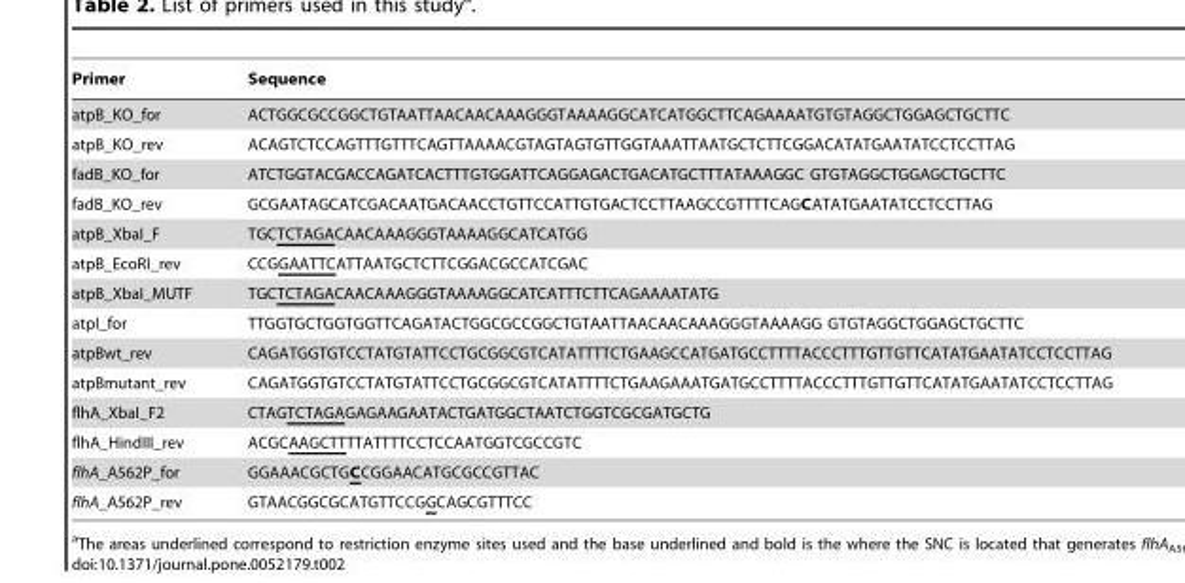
<table><thead><tr><td>Primer</td><td>Sequence</td></tr></thead><tbody><tr><td>atpB_KO_for</td><td>ACTGGCGCCGGCTGTAATTAACAACAAAGGGTAAAAGGCATCATGGCTTCAGAAAATGTGTAGGCTGGAGCTGCTTC</td></tr><tr><td>atpB_KO_rev</td><td>ACAGTCTCCAGTTTGTTTCAGTTAAAACGTAGTAGTGTTGGTAAATTAATGCTCTTCGGACATATGAATATCCTCCTTAG</td></tr><tr><td>fadB_KO_for</td><td>ATCTGGTACGACCAGATCACTTTGTGGATTCAGGAGACTGACATGCTTTATAAAGGC GTGTAGGCTGGAGCTGCTTC</td></tr><tr><td>fadB_KO_rev</td><td>GCGAATAGCATCGACAATGACAACCTGTTCCATTGTGACTCCTTAAGCCGTTTTCAGCATATGAATATCCTCCTTAG</td></tr><tr><td>atpB_XbaI_F</td><td>TGCTCTAGACAACAAAGGGTAAAAGGCATCATGG</td></tr><tr><td>atpB_EcoRI_rev</td><td>CCGGAATTCATTAATGCTCTTCGGACGCCATCGAC</td></tr><tr><td>atpB_XbaI_MUTF</td><td>TGCTCTAGACAACAAAGGGTAAAAGGCATCATTTCTTCAGAAAATATG</td></tr><tr><td>atpI_for</td><td>TTGGTGCTGGTGGTTCAGATACTGGCGCCGGCTGTAATTAACAACAAAGGGTAAAAGG GTGTAGGCTGGAGCTGCTTC</td></tr><tr><td>atpBwt_rev</td><td>CAGATGGTGTCCTATGTATTCCTGCGGCGTCATATTTTCTGAAGCCATGATGCCTTTTACCCTTTGTTGTTCATATGAATATCCTCCTTAG</td></tr><tr><td>atpBmutant_rev</td><td>CAGATGGTGTCCTATGTATTCCTGCGGCGTCATATTTTCTGAAGAAATGATGCCTTTTACCCTTTGTTGTTCATATGAATATCCTCCTTAG</td></tr><tr><td>flhA_XbaI_F2</td><td>CTAGTCTAGAGAGAAGAATACTGATGGCTAATCTGGTCGCGATGCTG</td></tr><tr><td>flhA_HindIII_rev</td><td>ACGCAAGCTTTTATTTTCCTCCAATGGTCGCCGTC</td></tr><tr><td>flhA_A562P_for</td><td>GGAAACGCTGCCGGAACATGCGCCGTTAC</td></tr><tr><td>flhA_A562P_rev</td><td>GTAACGGCGCATGTTCCGGCAGCGTTTCC</td></tr></tbody></table>